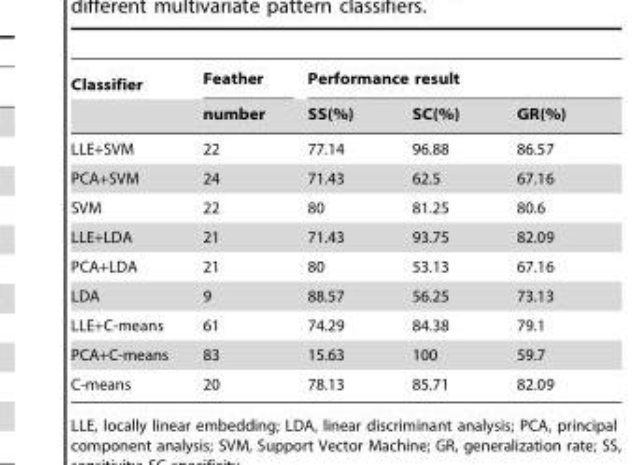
<table><thead><tr><td rowspan="2">Classifier</td><td rowspan="2">Feather number</td><td colspan="3">Performance result</td></tr><tr><td>SS(%)</td><td>SC(%)</td><td>GR(%)</td></tr></thead><tbody><tr><td>LLE+SVM</td><td>22</td><td>77.14</td><td>96.88</td><td>86.57</td></tr><tr><td>PCA+SVM</td><td>24</td><td>71.43</td><td>62.5</td><td>67.16</td></tr><tr><td>SVM</td><td>22</td><td>80</td><td>81.25</td><td>80.6</td></tr><tr><td>LLE+LDA</td><td>21</td><td>71.43</td><td>93.75</td><td>82.09</td></tr><tr><td>PCA+LDA</td><td>21</td><td>80</td><td>53.13</td><td>67.16</td></tr><tr><td>LDA</td><td>9</td><td>88.57</td><td>56.25</td><td>73.13</td></tr><tr><td>LLE+C-means</td><td>61</td><td>74.29</td><td>84.38</td><td>79.1</td></tr><tr><td>PCA+C-means</td><td>83</td><td>15.63</td><td>100</td><td>59.7</td></tr><tr><td>C-means</td><td>20</td><td>78.13</td><td>85.71</td><td>82.09</td></tr></tbody></table>